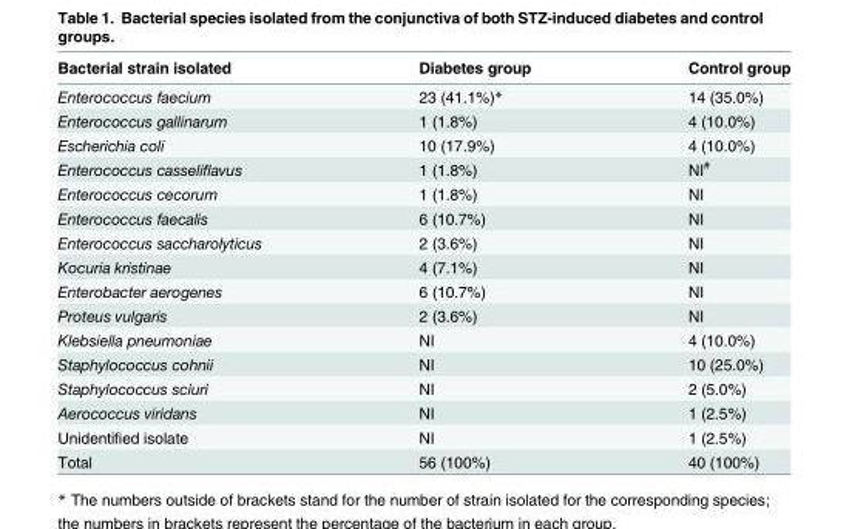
<table><thead><tr><td>Bacterial strain isolated</td><td>Diabetes group</td><td>Control group</td></tr></thead><tbody><tr><td>Enterococcus faecium</td><td>23 (41.1%)*</td><td>14 (35.0%)</td></tr><tr><td>Enterococcus gallinarum</td><td>1 (1.8%)</td><td>4 (10.0%)</td></tr><tr><td>Escherichia coli</td><td>10 (17.9%)</td><td>4 (10.0%)</td></tr><tr><td>Enterococcus casseliflavus</td><td>1 (1.8%)</td><td>NI<sup>#</sup></td></tr><tr><td>Enterococcus cecorum</td><td>1 (1.8%)</td><td>NI</td></tr><tr><td>Enterococcus faecalis</td><td>6 (10.7%)</td><td>NI</td></tr><tr><td>Enterococcus saccharolyticus</td><td>2 (3.6%)</td><td>NI</td></tr><tr><td>Kocuria kristinae</td><td>4 (7.1%)</td><td>NI</td></tr><tr><td>Enterobacter aerogenes</td><td>6 (10.7%)</td><td>NI</td></tr><tr><td>Proteus vulgaris</td><td>2 (3.6%)</td><td>NI</td></tr><tr><td>Klebsiella pneumoniae</td><td>NI</td><td>4 (10.0%)</td></tr><tr><td>Staphylococcus cohnii</td><td>NI</td><td>10 (25.0%)</td></tr><tr><td>Staphylococcus sciuri</td><td>NI</td><td>2 (5.0%)</td></tr><tr><td>Aerococcus viridans</td><td>NI</td><td>1 (2.5%)</td></tr><tr><td>Unidentified isolate</td><td>NI</td><td>1 (2.5%)</td></tr><tr><td>Total</td><td>56 (100%)</td><td>40 (100%)</td></tr></tbody></table>